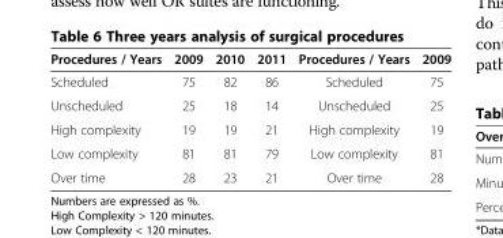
<table><thead><tr><td>Procedures / Years</td><td>2009</td><td>2010</td><td>2011</td><td>Procedures / Years</td><td>2009</td></tr></thead><tbody><tr><td>Scheduled</td><td>75</td><td>82</td><td>86</td><td>Scheduled</td><td>75</td></tr><tr><td>Unscheduled</td><td>25</td><td>18</td><td>14</td><td>Unscheduled</td><td>25</td></tr><tr><td>High complexity</td><td>19</td><td>19</td><td>21</td><td>High complexity</td><td>19</td></tr><tr><td>Low complexity</td><td>81</td><td>81</td><td>79</td><td>Low complexity</td><td>81</td></tr><tr><td>Over time</td><td>28</td><td>23</td><td>21</td><td>Over time</td><td>28</td></tr></tbody></table>